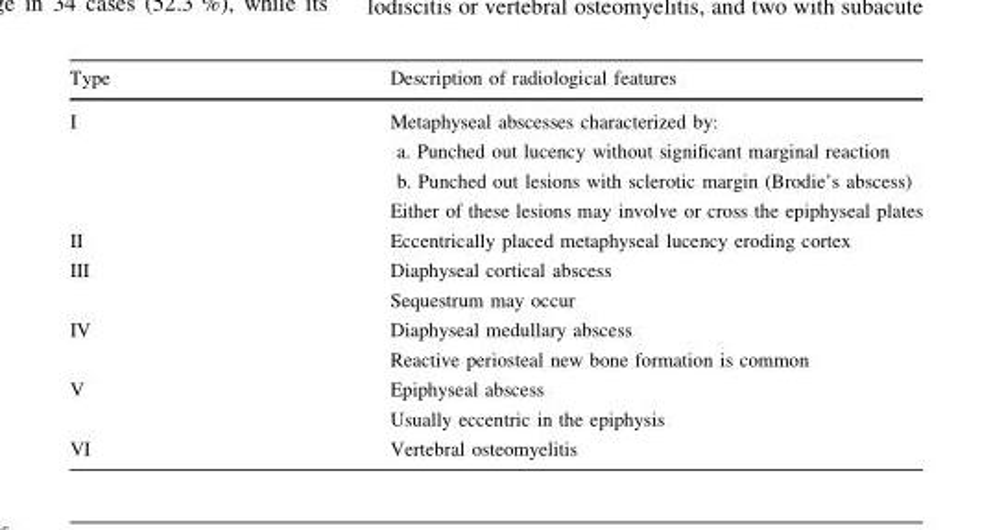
<table><thead><tr><td>Type</td><td>Description of radiological features</td></tr></thead><tbody><tr><td>I</td><td>Metaphyseal abscesses characterized by: a. Punched out lucency without significant marginal reaction b. Punched out lesions with sclerotic margin (Brodie’s abscess) Either of these lesions may involve or cross the epiphyseal plates</td></tr><tr><td>II</td><td>Eccentrically placed metaphyseal lucency eroding cortex</td></tr><tr><td>III</td><td>Diaphyseal cortical abscess Sequestrum may occur</td></tr><tr><td>IV</td><td>Diaphyseal medullary abscess Reactive periosteal new bone formation is common</td></tr><tr><td>V</td><td>Epiphyseal abscess Usually eccentric in the epiphysis</td></tr><tr><td>VI</td><td>Vertebral osteomyelitis</td></tr></tbody></table>